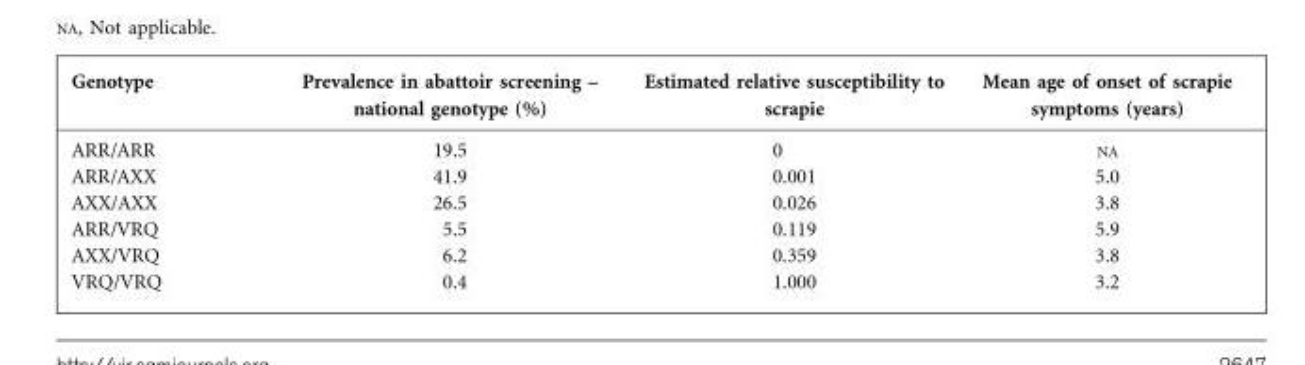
<table><thead><tr><td>Genotype</td><td>Prevalence in abattoir screening – national genotype (%)</td><td>Estimated relative susceptibility to scrapie</td><td>Mean age of onset of scrapie symptoms (years)</td></tr></thead><tbody><tr><td>ARR/ARR</td><td>19.5</td><td>0</td><td>NA</td></tr><tr><td>ARR/AXX</td><td>41.9</td><td>0.001</td><td>5.0</td></tr><tr><td>AXX/AXX</td><td>26.5</td><td>0.026</td><td>3.8</td></tr><tr><td>ARR/VRQ</td><td>5.5</td><td>0.119</td><td>5.9</td></tr><tr><td>AXX/VRQ</td><td>6.2</td><td>0.359</td><td>3.8</td></tr><tr><td>VRQ/VRQ</td><td>0.4</td><td>1.000</td><td>3.2</td></tr></tbody></table>